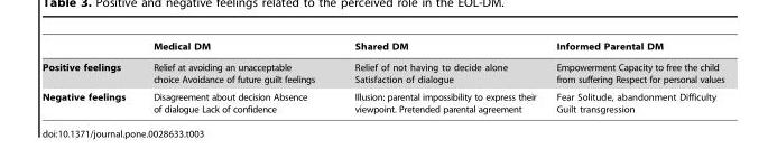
<table><thead><tr><td></td><td>Medical DM</td><td>Shared DM</td><td>Informed Parental DM</td></tr></thead><tbody><tr><td>Positive feelings</td><td>Relief at avoiding an unacceptable choice Avoidance of future guilt feelings</td><td>Relief of not having to decide alone Satisfaction of dialogue</td><td>Empowerment Capacity to free the child from suffering Respect for personal values</td></tr><tr><td>Negative feelings</td><td>Disagreement about decision Absence of dialogue Lack of confidence</td><td>Illusion: parental impossibility to express their viewpoint. Pretended parental agreement</td><td>Fear Solitude, abandonment Difficulty Guilt transgression</td></tr></tbody></table>